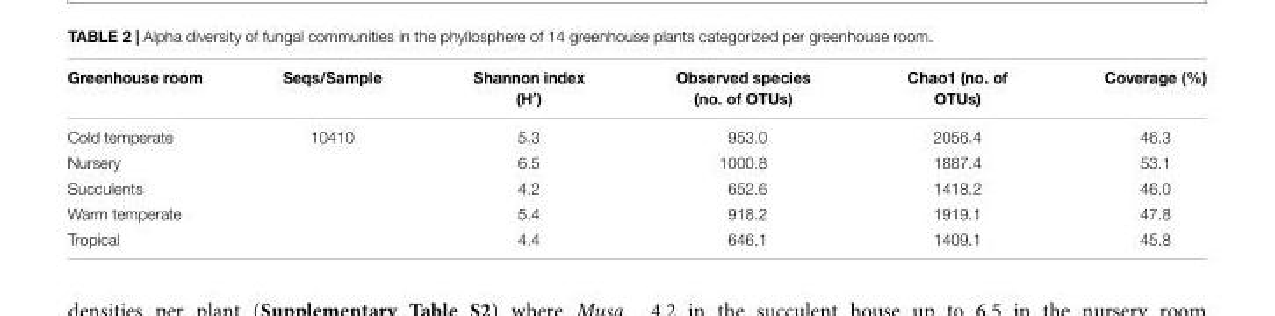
<table><thead><tr><td>Greenhouse room</td><td>Seqs/Sample</td><td>Shannon index (H′)</td><td>Observed species (no. of OTUs)</td><td>Chao1 (no. of OTUs)</td><td>Coverage (%)</td></tr></thead><tbody><tr><td>Cold temperate</td><td>10410</td><td>5.3</td><td>953.0</td><td>2056.4</td><td>46.3</td></tr><tr><td>Nursery</td><td></td><td>6.5</td><td>1000.8</td><td>1887.4</td><td>53.1</td></tr><tr><td>Succulents</td><td></td><td>4.2</td><td>652.6</td><td>1418.2</td><td>46.0</td></tr><tr><td>Warm temperate</td><td></td><td>5.4</td><td>918.2</td><td>1919.1</td><td>47.8</td></tr><tr><td>Tropical</td><td></td><td>4.4</td><td>646.1</td><td>1409.1</td><td>45.8</td></tr></tbody></table>